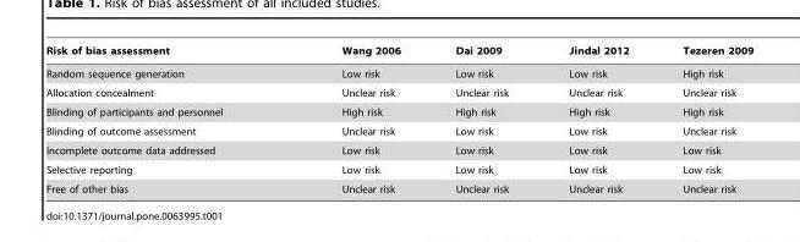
<table><thead><tr><td>Risk of bias assessment</td><td>Wang 2006</td><td>Dai 2009</td><td>Jindal 2012</td><td>Tezeren 2009</td></tr></thead><tbody><tr><td>Random sequence generation</td><td>Low risk</td><td>Low risk</td><td>Low risk</td><td>High risk</td></tr><tr><td>Allocation concealment</td><td>Unclear risk</td><td>Unclear risk</td><td>Unclear risk</td><td>Unclear risk</td></tr><tr><td>Blinding of participants and personnel</td><td>High risk</td><td>High risk</td><td>High risk</td><td>High risk</td></tr><tr><td>Blinding of outcome assessment</td><td>Unclear risk</td><td>Low risk</td><td>Low risk</td><td>Unclear risk</td></tr><tr><td>Incomplete outcome data addressed</td><td>Low risk</td><td>Low risk</td><td>Low risk</td><td>Low risk</td></tr><tr><td>Selective reporting</td><td>Low risk</td><td>Low risk</td><td>Low risk</td><td>Low risk</td></tr><tr><td>Free of other bias</td><td>Unclear risk</td><td>Unclear risk</td><td>Unclear risk</td><td>Unclear risk</td></tr></tbody></table>